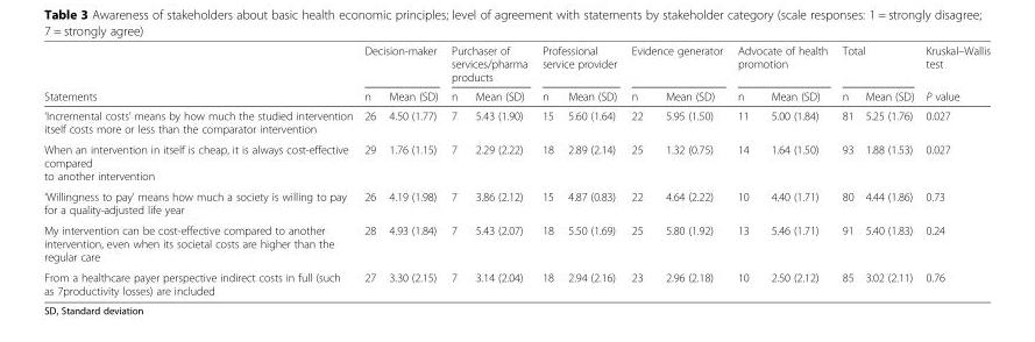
<table><thead><tr><td rowspan="2">Statements</td><td colspan="2">Decision-maker</td><td colspan="2">Purchaser of services/pharma products</td><td colspan="2">Professional service provider</td><td colspan="2">Evidence generator</td><td colspan="2">Advocate of health promotion</td><td colspan="2">Total</td><td rowspan="2">Kruskal–Wallis test P value</td></tr><tr><td>n</td><td>Mean (SD)</td><td>n</td><td>Mean (SD)</td><td>n</td><td>Mean (SD)</td><td>n</td><td>Mean (SD)</td><td>n</td><td>Mean (SD)</td><td>n</td><td>Mean (SD)</td></tr></thead><tbody><tr><td>‘Incremental costs’ means by how much the studied intervention itself costs more or less than the comparator intervention</td><td>26</td><td>4.50 (1.77)</td><td>7</td><td>5.43 (1.90)</td><td>15</td><td>5.60 (1.64)</td><td>22</td><td>5.95 (1.50)</td><td>11</td><td>5.00 (1.84)</td><td>81</td><td>5.25 (1.76)</td><td>0.027</td></tr><tr><td>When an intervention in itself is cheap, it is always cost-effective compared to another intervention</td><td>29</td><td>1.76 (1.15)</td><td>7</td><td>2.29 (2.22)</td><td>18</td><td>2.89 (2.14)</td><td>25</td><td>1.32 (0.75)</td><td>14</td><td>1.64 (1.50)</td><td>93</td><td>1.88 (1.53)</td><td>0.027</td></tr><tr><td>‘Willingness to pay’ means how much a society is willing to pay for a quality-adjusted life year</td><td>26</td><td>4.19 (1.98)</td><td>7</td><td>3.86 (2.12)</td><td>15</td><td>4.87 (0.83)</td><td>22</td><td>4.64 (2.22)</td><td>10</td><td>4.40 (1.71)</td><td>80</td><td>4.44 (1.86)</td><td>0.73</td></tr><tr><td>My intervention can be cost-effective compared to another intervention, even when its societal costs are higher than the regular care</td><td>28</td><td>4.93 (1.84)</td><td>7</td><td>5.43 (2.07)</td><td>18</td><td>5.50 (1.69)</td><td>25</td><td>5.80 (1.92)</td><td>13</td><td>5.46 (1.71)</td><td>91</td><td>5.40 (1.83)</td><td>0.24</td></tr><tr><td>From a healthcare payer perspective indirect costs in full (such as 7productivity losses) are included</td><td>27</td><td>3.30 (2.15)</td><td>7</td><td>3.14 (2.04)</td><td>18</td><td>2.94 (2.16)</td><td>23</td><td>2.96 (2.18)</td><td>10</td><td>2.50 (2.12)</td><td>85</td><td>3.02 (2.11)</td><td>0.76</td></tr></tbody></table>